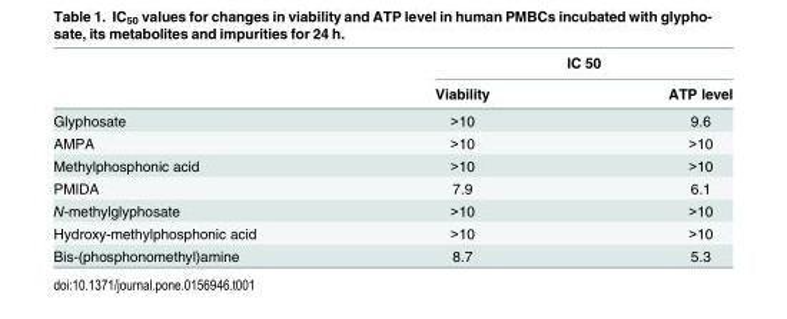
<table><thead><tr><td rowspan="2"></td><td colspan="2">IC 50</td></tr><tr><td>Viability</td><td>ATP level</td></tr></thead><tbody><tr><td>Glyphosate</td><td>&gt;10</td><td>9.6</td></tr><tr><td>AMPA</td><td>&gt;10</td><td>&gt;10</td></tr><tr><td>Methylphosphonic acid</td><td>&gt;10</td><td>&gt;10</td></tr><tr><td>PMIDA</td><td>7.9</td><td>6.1</td></tr><tr><td>N-methylglyphosate</td><td>&gt;10</td><td>&gt;10</td></tr><tr><td>Hydroxy-methylphosphonic acid</td><td>&gt;10</td><td>&gt;10</td></tr><tr><td>Bis-(phosphonomethyl)amine</td><td>8.7</td><td>5.3</td></tr></tbody></table>